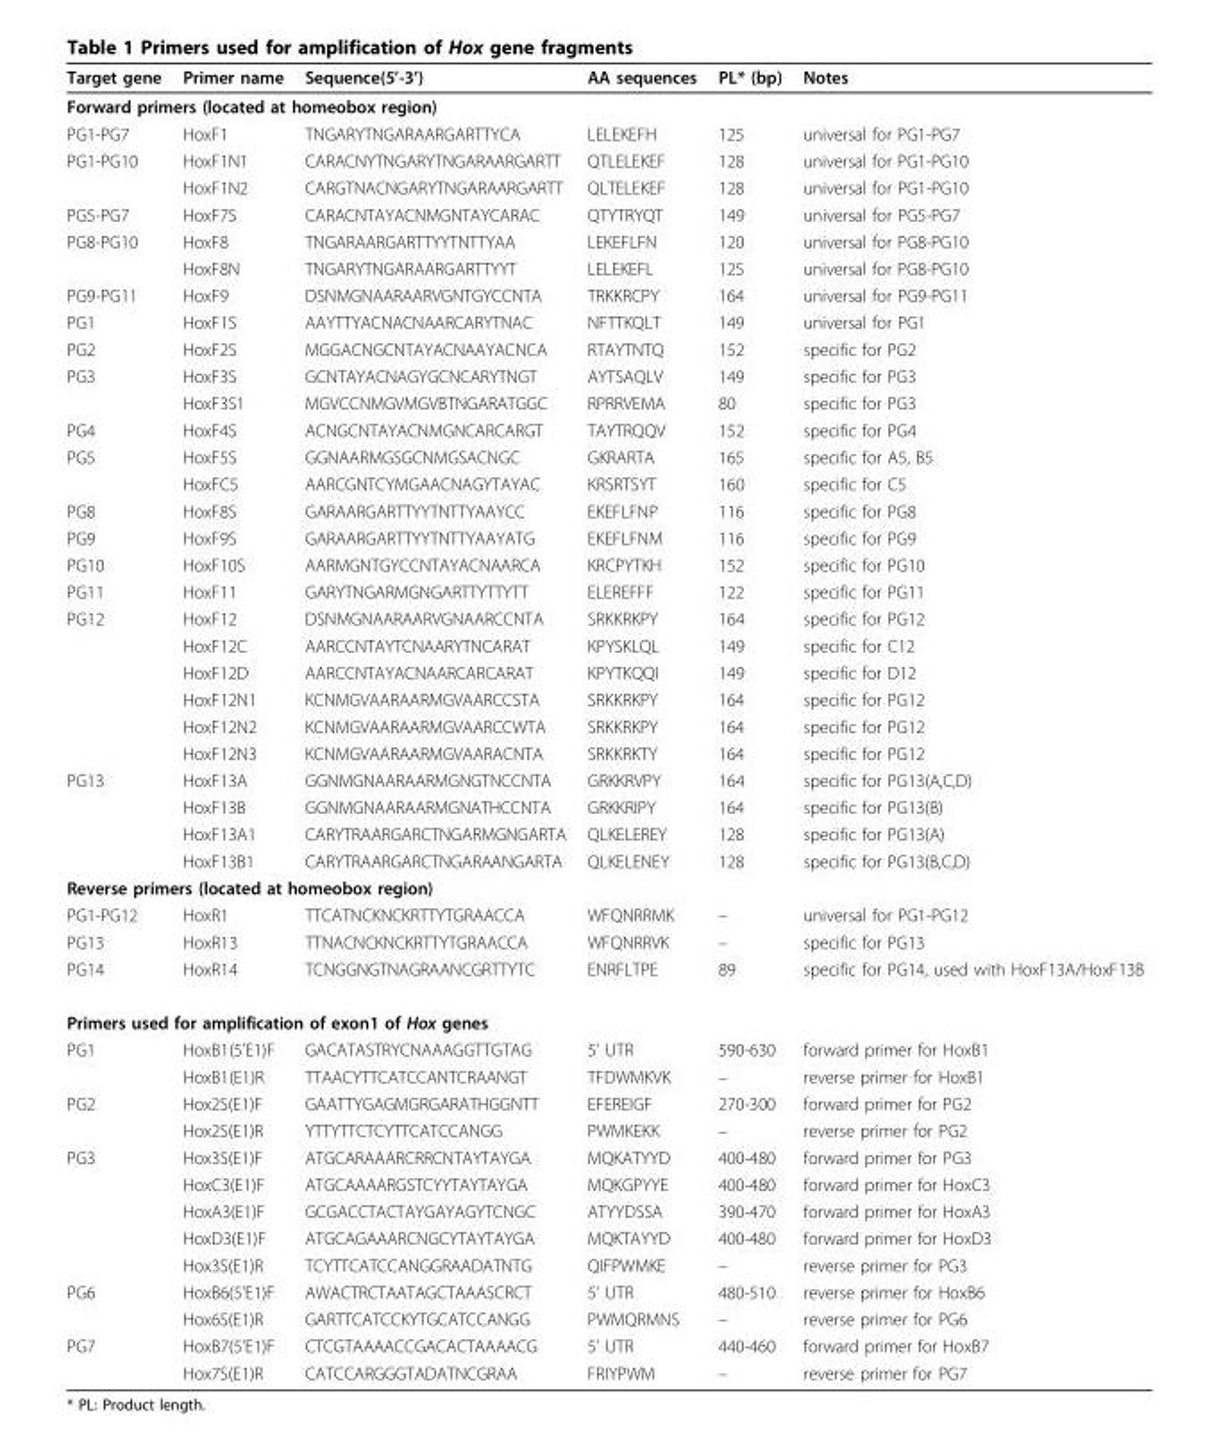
<table><thead><tr><td>Target gene</td><td>Primer name</td><td>Sequence(5’-3’)</td><td>AA sequences</td><td>PL* (bp)</td><td>Notes</td></tr></thead><tbody><tr><td colspan="6">Forward primers (located at homeobox region)</td></tr><tr><td>PG1-PG7</td><td>HoxF1</td><td>TNGARYTNGARAARGARTTYCA</td><td>LELEKEFH</td><td>125</td><td>universal for PG1-PG7</td></tr><tr><td rowspan="2">PG1-PG10</td><td>HoxF1N1</td><td>CARACNYTNGARYTNGARAARGARTT</td><td>QTLELEKEF</td><td>128</td><td>universal for PG1-PG10</td></tr><tr><td>HoxF1N2</td><td>CARGTNACNGARYTNGARAARGARTT</td><td>QLTELEKEF</td><td>128</td><td>universal for PG1-PG10</td></tr><tr><td>PG5-PG7</td><td>HoxF7S</td><td>CARACNTAYACNMGNTAYCARAC</td><td>QTYTRYQT</td><td>149</td><td>universal for PG5-PG7</td></tr><tr><td rowspan="2">PG8-PG10</td><td>HoxF8</td><td>TNGARAARGARTTYYTNTTYAA</td><td>LEKEFLFN</td><td>120</td><td>universal for PG8-PG10</td></tr><tr><td>HoxF8N</td><td>TNGARYTNGARAARGARTTYYT</td><td>LELEKEFL</td><td>125</td><td>universal for PG8-PG10</td></tr><tr><td>PG9-PG11</td><td>HoxF9</td><td>DSNMGNAARAARVGNTGYCCNTA</td><td>TRKKRCPY</td><td>164</td><td>universal for PG9-PG11</td></tr><tr><td>PG1</td><td>HoxF1S</td><td>AAYTTYACNACNAARCARYTNAC</td><td>NFTTKQLT</td><td>149</td><td>universal for PG1</td></tr><tr><td>PG2</td><td>HoxF2S</td><td>MGGACNGCNTAYACNAAYACNCA</td><td>RTAYTNTQ</td><td>152</td><td>specific for PG2</td></tr><tr><td rowspan="2">PG3</td><td>HoxF3S</td><td>GCNTAYACNAGYGCNCARYTNGT</td><td>AYTSAQLV</td><td>149</td><td>specific for PG3</td></tr><tr><td>HoxF3S1</td><td>MGVCCNMGVMGVBTNGARATGGC</td><td>RPRRVEMA</td><td>80</td><td>specific for PG3</td></tr><tr><td>PG4</td><td>HoxF4S</td><td>ACNGCNTAYACNMGNCARCARGT</td><td>TAYTRQQV</td><td>152</td><td>specific for PG4</td></tr><tr><td rowspan="2">PG5</td><td>HoxF5S</td><td>GGNAARMGSGCNMGSACNGC</td><td>GKRARTA</td><td>165</td><td>specific for A5, B5</td></tr><tr><td>HoxFC5</td><td>AARCGNTCYMGAACNAGYTAYAC</td><td>KRSRTSYT</td><td>160</td><td>specific for C5</td></tr><tr><td>PG8</td><td>HoxF8S</td><td>GARAARGARTTYYTNTTYAAYCC</td><td>EKEFLFNP</td><td>116</td><td>specific for PG8</td></tr><tr><td>PG9</td><td>HoxF9S</td><td>GARAARGARTTYYTNTTYAAYATG</td><td>EKEFLFNM</td><td>116</td><td>specific for PG9</td></tr><tr><td>PG10</td><td>HoxF10S</td><td>AARMGNTGYCCNTAYACNAARCA</td><td>KRCPYTKH</td><td>152</td><td>specific for PG10</td></tr><tr><td>PG11</td><td>HoxF11</td><td>GARYTNGARMGNGARTTYTTYTT</td><td>ELEREFFF</td><td>122</td><td>specific for PG11</td></tr><tr><td rowspan="6">PG12</td><td>HoxF12</td><td>DSNMGNAARAARVGNAARCCNTA</td><td>SRKKRKPY</td><td>164</td><td>specific for PG12</td></tr><tr><td>HoxF12C</td><td>AARCCNTAYTCNAARYTNCARAT</td><td>KPYSKLQL</td><td>149</td><td>specific for C12</td></tr><tr><td>HoxF12D</td><td>AARCCNTAYACNAARCARCARAT</td><td>KPYTKQQI</td><td>149</td><td>specific for D12</td></tr><tr><td>HoxF12N1</td><td>KCNMGVAARAARMGVAARCCSTA</td><td>SRKKRKPY</td><td>164</td><td>specific for PG12</td></tr><tr><td>HoxF12N2</td><td>KCNMGVAARAARMGVAARCCWTA</td><td>SRKKRKPY</td><td>164</td><td>specific for PG12</td></tr><tr><td>HoxF12N3</td><td>KCNMGVAARAARMGVAARACNTA</td><td>SRKKRKTY</td><td>164</td><td>specific for PG12</td></tr><tr><td rowspan="4">PG13</td><td>HoxF13A</td><td>GGNMGNAARAARMGNGTNCCNTA</td><td>GRKKRVPY</td><td>164</td><td>specific for PG13(A,C,D)</td></tr><tr><td>HoxF13B</td><td>GGNMGNAARAARMGNATHCCNTA</td><td>GRKKRIPY</td><td>164</td><td>specific for PG13(B)</td></tr><tr><td>HoxF13A1</td><td>CARYTRAARGARCTNGARMGNGARTA</td><td>QLKELEREY</td><td>128</td><td>specific for PG13(A)</td></tr><tr><td>HoxF13B1</td><td>CARYTRAARGARCTNGARAANGARTA</td><td>QLKELENEY</td><td>128</td><td>specific for PG13(B,C,D)</td></tr><tr><td colspan="6">Reverse primers (located at homeobox region)</td></tr><tr><td>PG1-PG12</td><td>HoxR1</td><td>TTCATNCKNCKRTTYTGRAACCA</td><td>WFQNRRMK</td><td>–</td><td>universal for PG1-PG12</td></tr><tr><td>PG13</td><td>HoxR13</td><td>TTNACNCKNCKRTTYTGRAACCA</td><td>WFQNRRVK</td><td>–</td><td>specific for PG13</td></tr><tr><td>PG14</td><td>HoxR14</td><td>TCNGGNGTNAGRAANCGRTTYTC</td><td>ENRFLTPE</td><td>89</td><td>specific for PG14, used with HoxF13A/HoxF13B</td></tr><tr><td colspan="6">Primers used for amplification of exon1 of Hox genes</td></tr><tr><td rowspan="2">PG1</td><td>HoxB1(5’E1)F</td><td>GACATASTRYCNAAAGGTTGTAG</td><td>5’ UTR</td><td>590-630</td><td>forward primer for HoxB1</td></tr><tr><td>HoxB1(E1)R</td><td>TTAACYTTCATCCANTCRAANGT</td><td>TFDWMKVK</td><td>–</td><td>reverse primer for HoxB1</td></tr><tr><td rowspan="2">PG2</td><td>Hox2S(E1)F</td><td>GAATTYGAGMGRGARATHGGNTT</td><td>EFEREIGF</td><td>270-300</td><td>forward primer for PG2</td></tr><tr><td>Hox2S(E1)R</td><td>YTTYTTCTCYTTCATCCANGG</td><td>PWMKEKK</td><td>–</td><td>reverse primer for PG2</td></tr><tr><td rowspan="5">PG3</td><td>Hox3S(E1)F</td><td>ATGCARAAARCRRCNTAYTAYGA</td><td>MQKATYYD</td><td>400-480</td><td>forward primer for PG3</td></tr><tr><td>HoxC3(E1)F</td><td>ATGCAAAARGSTCYYTAYTAYGA</td><td>MQKGPYYE</td><td>400-480</td><td>forward primer for HoxC3</td></tr><tr><td>HoxA3(E1)F</td><td>GCGACCTACTAYGAYAGYTCNGC</td><td>ATYYDSSA</td><td>390-470</td><td>forward primer for HoxA3</td></tr><tr><td>HoxD3(E1)F</td><td>ATGCAGAAARCNGCYTAYTAYGA</td><td>MQKTAYYD</td><td>400-480</td><td>forward primer for HoxD3</td></tr><tr><td>Hox3S(E1)R</td><td>TCYTTCATCCANGGRAADATNTG</td><td>QIFPWMKE</td><td>–</td><td>reverse primer for PG3</td></tr><tr><td rowspan="2">PG6</td><td>HoxB6(5’E1)F</td><td>AWACTRCTAATAGCTAAASCRCT</td><td>5’ UTR</td><td>480-510</td><td>reverse primer for HoxB6</td></tr><tr><td>Hox6S(E1)R</td><td>GARTTCATCCKYTGCATCCANGG</td><td>PWMQRMNS</td><td>–</td><td>reverse primer for PG6</td></tr><tr><td rowspan="2">PG7</td><td>HoxB7(5’E1)F</td><td>CTCGTAAAACCGACACTAAAACG</td><td>5’ UTR</td><td>440-460</td><td>forward primer for HoxB7</td></tr><tr><td>Hox7S(E1)R</td><td>CATCCARGGGTADATNCGRAA</td><td>FRIYPWM</td><td>–</td><td>reverse primer for PG7</td></tr></tbody></table>